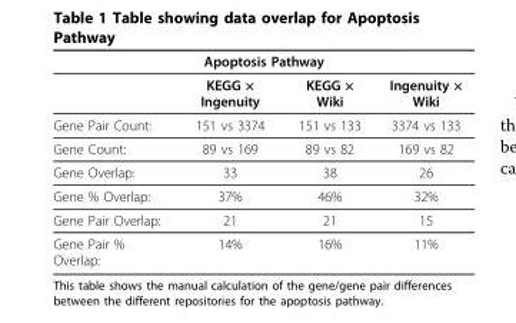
<table><thead><tr><td colspan="4">Apoptosis Pathway</td></tr><tr><td></td><td>KEGG × Ingenuity</td><td>KEGG × Wiki</td><td>Ingenuity × Wiki</td></tr></thead><tbody><tr><td>Gene Pair Count:</td><td>151 vs 3374</td><td>151 vs 133</td><td>3374 vs 133</td></tr><tr><td>Gene Count:</td><td>89 vs 169</td><td>89 vs 82</td><td>169 vs 82</td></tr><tr><td>Gene Overlap:</td><td>33</td><td>38</td><td>26</td></tr><tr><td>Gene % Overlap:</td><td>37%</td><td>46%</td><td>32%</td></tr><tr><td>Gene Pair Overlap:</td><td>21</td><td>21</td><td>15</td></tr><tr><td>Gene Pair % Overlap:</td><td>14%</td><td>16%</td><td>11%</td></tr></tbody></table>